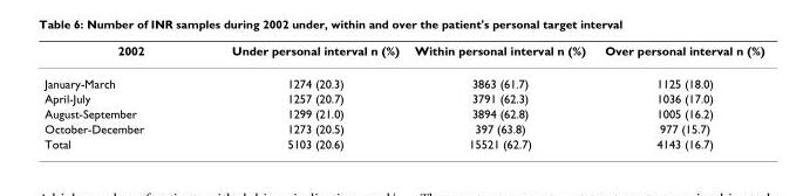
<table><thead><tr><td>2002</td><td>Under personal interval n (%)</td><td>Within personal interval n (%)</td><td>Over personal interval n (%)</td></tr></thead><tbody><tr><td>January-March</td><td>1274 (20.3)</td><td>3863 (61.7)</td><td>1125 (18.0)</td></tr><tr><td>April-July</td><td>1257 (20.7)</td><td>3791 (62.3)</td><td>1036 (17.0)</td></tr><tr><td>August-September</td><td>1299 (21.0)</td><td>3894 (62.8)</td><td>1005 (16.2)</td></tr><tr><td>October-December</td><td>1273 (20.5)</td><td>397 (63.8)</td><td>977 (15.7)</td></tr><tr><td>Total</td><td>5103 (20.6)</td><td>15521 (62.7)</td><td>4143 (16.7)</td></tr></tbody></table>